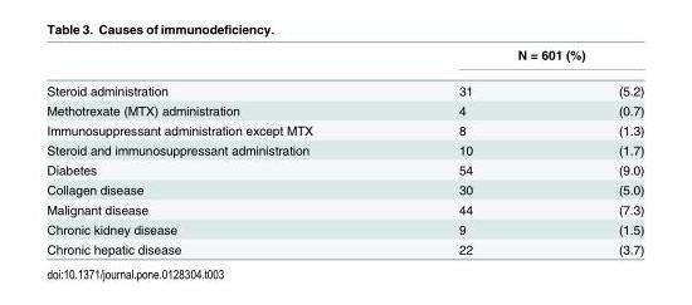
<table><thead><tr><td rowspan="2">Steroid administration</td><td colspan="2">N = 601 (%)</td></tr><tr><td>31</td><td>(5.2)</td></tr></thead><tbody><tr><td>Methotrexate (MTX) administration</td><td>4</td><td>(0.7)</td></tr><tr><td>Immunosuppressant administration except MTX</td><td>8</td><td>(1.3)</td></tr><tr><td>Steroid and immunosuppressant administration</td><td>10</td><td>(1.7)</td></tr><tr><td>Diabetes</td><td>54</td><td>(9.0)</td></tr><tr><td>Collagen disease</td><td>30</td><td>(5.0)</td></tr><tr><td>Malignant disease</td><td>44</td><td>(7.3)</td></tr><tr><td>Chronic kidney disease</td><td>9</td><td>(1.5)</td></tr><tr><td>Chronic hepatic disease</td><td>22</td><td>(3.7)</td></tr></tbody></table>